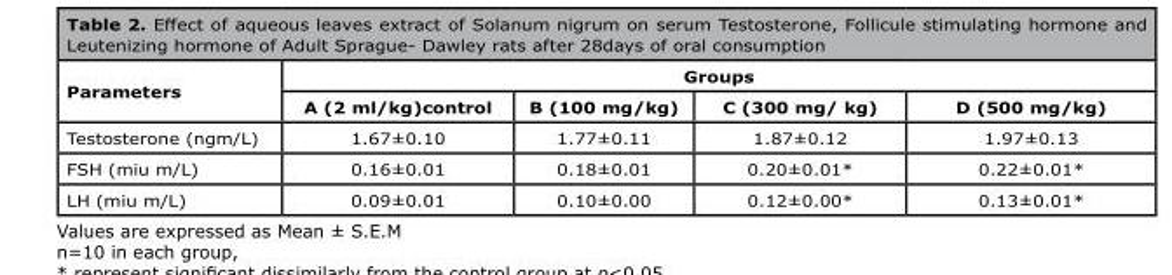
<table><thead><tr><td rowspan="2">Parameters</td><td colspan="4">Groups</td></tr><tr><td>A (2 ml/kg)control</td><td>B (100 mg/kg)</td><td>C (300 mg/ kg)</td><td>D (500 mg/kg)</td></tr></thead><tbody><tr><td>Testosterone (ngm/L)</td><td>1.67±0.10</td><td>1.77±0.11</td><td>1.87±0.12</td><td>1.97±0.13</td></tr><tr><td>FSH (miu m/L)</td><td>0.16±0.01</td><td>0.18±0.01</td><td>0.20±0.01*</td><td>0.22±0.01*</td></tr><tr><td>LH (miu m/L)</td><td>0.09±0.01</td><td>0.10±0.00</td><td>0.12±0.00*</td><td>0.13±0.01*</td></tr></tbody></table>